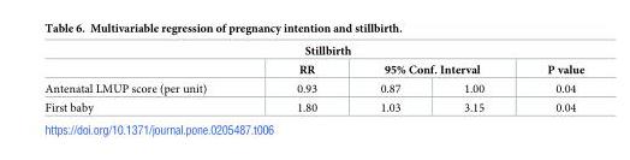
<table><thead><tr><td colspan="5">Stillbirth</td></tr><tr><td rowspan="2">Antenatal LMUP score (per unit)</td><td rowspan="2">RR 0.93</td><td colspan="2">95% Conf. Interval</td><td rowspan="2">P value 0.04</td></tr><tr><td>0.87</td><td>1.00</td></tr></thead><tbody><tr><td>First baby</td><td>1.80</td><td>1.03</td><td>3.15</td><td>0.04</td></tr></tbody></table>